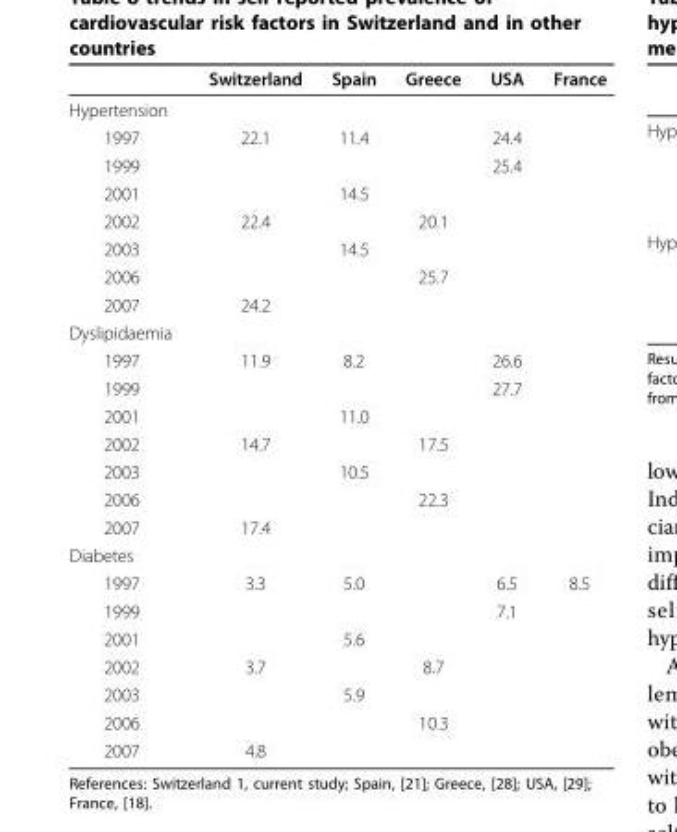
<table><thead><tr><td></td><td>Switzerland</td><td>Spain</td><td>Greece</td><td>USA</td><td>France</td></tr></thead><tbody><tr><td colspan="6">Hypertension</td></tr><tr><td>1997</td><td>22.1</td><td>11.4</td><td></td><td>24.4</td><td></td></tr><tr><td>1999</td><td></td><td></td><td></td><td>25.4</td><td></td></tr><tr><td>2001</td><td></td><td>14.5</td><td></td><td></td><td></td></tr><tr><td>2002</td><td>22.4</td><td></td><td>20.1</td><td></td><td></td></tr><tr><td>2003</td><td></td><td>14.5</td><td></td><td></td><td></td></tr><tr><td>2006</td><td></td><td></td><td>25.7</td><td></td><td></td></tr><tr><td>2007</td><td>24.2</td><td></td><td></td><td></td><td></td></tr><tr><td colspan="6">Dyslipidaemia</td></tr><tr><td>1997</td><td>11.9</td><td>8.2</td><td></td><td>26.6</td><td></td></tr><tr><td>1999</td><td></td><td></td><td></td><td>27.7</td><td></td></tr><tr><td>2001</td><td></td><td>11.0</td><td></td><td></td><td></td></tr><tr><td>2002</td><td>14.7</td><td></td><td>17.5</td><td></td><td></td></tr><tr><td>2003</td><td></td><td>10.5</td><td></td><td></td><td></td></tr><tr><td>2006</td><td></td><td></td><td>22.3</td><td></td><td></td></tr><tr><td>2007</td><td>17.4</td><td></td><td></td><td></td><td></td></tr><tr><td colspan="6">Diabetes</td></tr><tr><td>1997</td><td>3.3</td><td>5.0</td><td></td><td>6.5</td><td>8.5</td></tr><tr><td>1999</td><td></td><td></td><td></td><td>7.1</td><td></td></tr><tr><td>2001</td><td></td><td>5.6</td><td></td><td></td><td></td></tr><tr><td>2002</td><td>3.7</td><td></td><td>8.7</td><td></td><td></td></tr><tr><td>2003</td><td></td><td>5.9</td><td></td><td></td><td></td></tr><tr><td>2006</td><td></td><td></td><td>10.3</td><td></td><td></td></tr><tr><td>2007</td><td>4.8</td><td></td><td></td><td></td><td></td></tr></tbody></table>